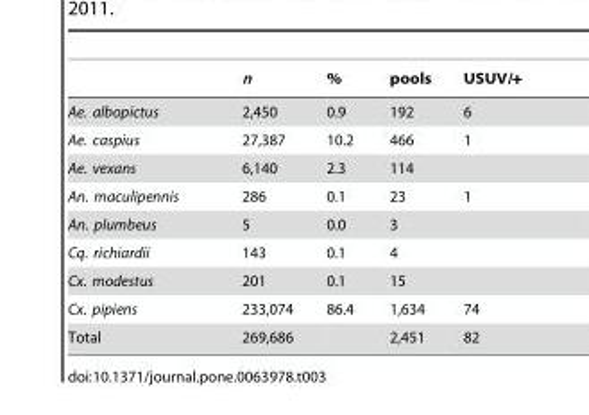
<table><thead><tr><td></td><td>n</td><td>%</td><td>pools</td><td>USUV/+</td></tr></thead><tbody><tr><td>Ae. albopictus</td><td>2,450</td><td>0.9</td><td>192</td><td>6</td></tr><tr><td>Ae. caspius</td><td>27,387</td><td>10.2</td><td>466</td><td>1</td></tr><tr><td>Ae. vexans</td><td>6,140</td><td>2.3</td><td>114</td><td></td></tr><tr><td>An. maculipennis</td><td>286</td><td>0.1</td><td>23</td><td>1</td></tr><tr><td>An. plumbeus</td><td>5</td><td>0.0</td><td>3</td><td></td></tr><tr><td>Cq. richiardii</td><td>143</td><td>0.1</td><td>4</td><td></td></tr><tr><td>Cx. modestus</td><td>201</td><td>0.1</td><td>15</td><td></td></tr><tr><td>Cx. pipiens</td><td>233,074</td><td>86.4</td><td>1,634</td><td>74</td></tr><tr><td>Total</td><td>269,686</td><td></td><td>2,451</td><td>82</td></tr></tbody></table>